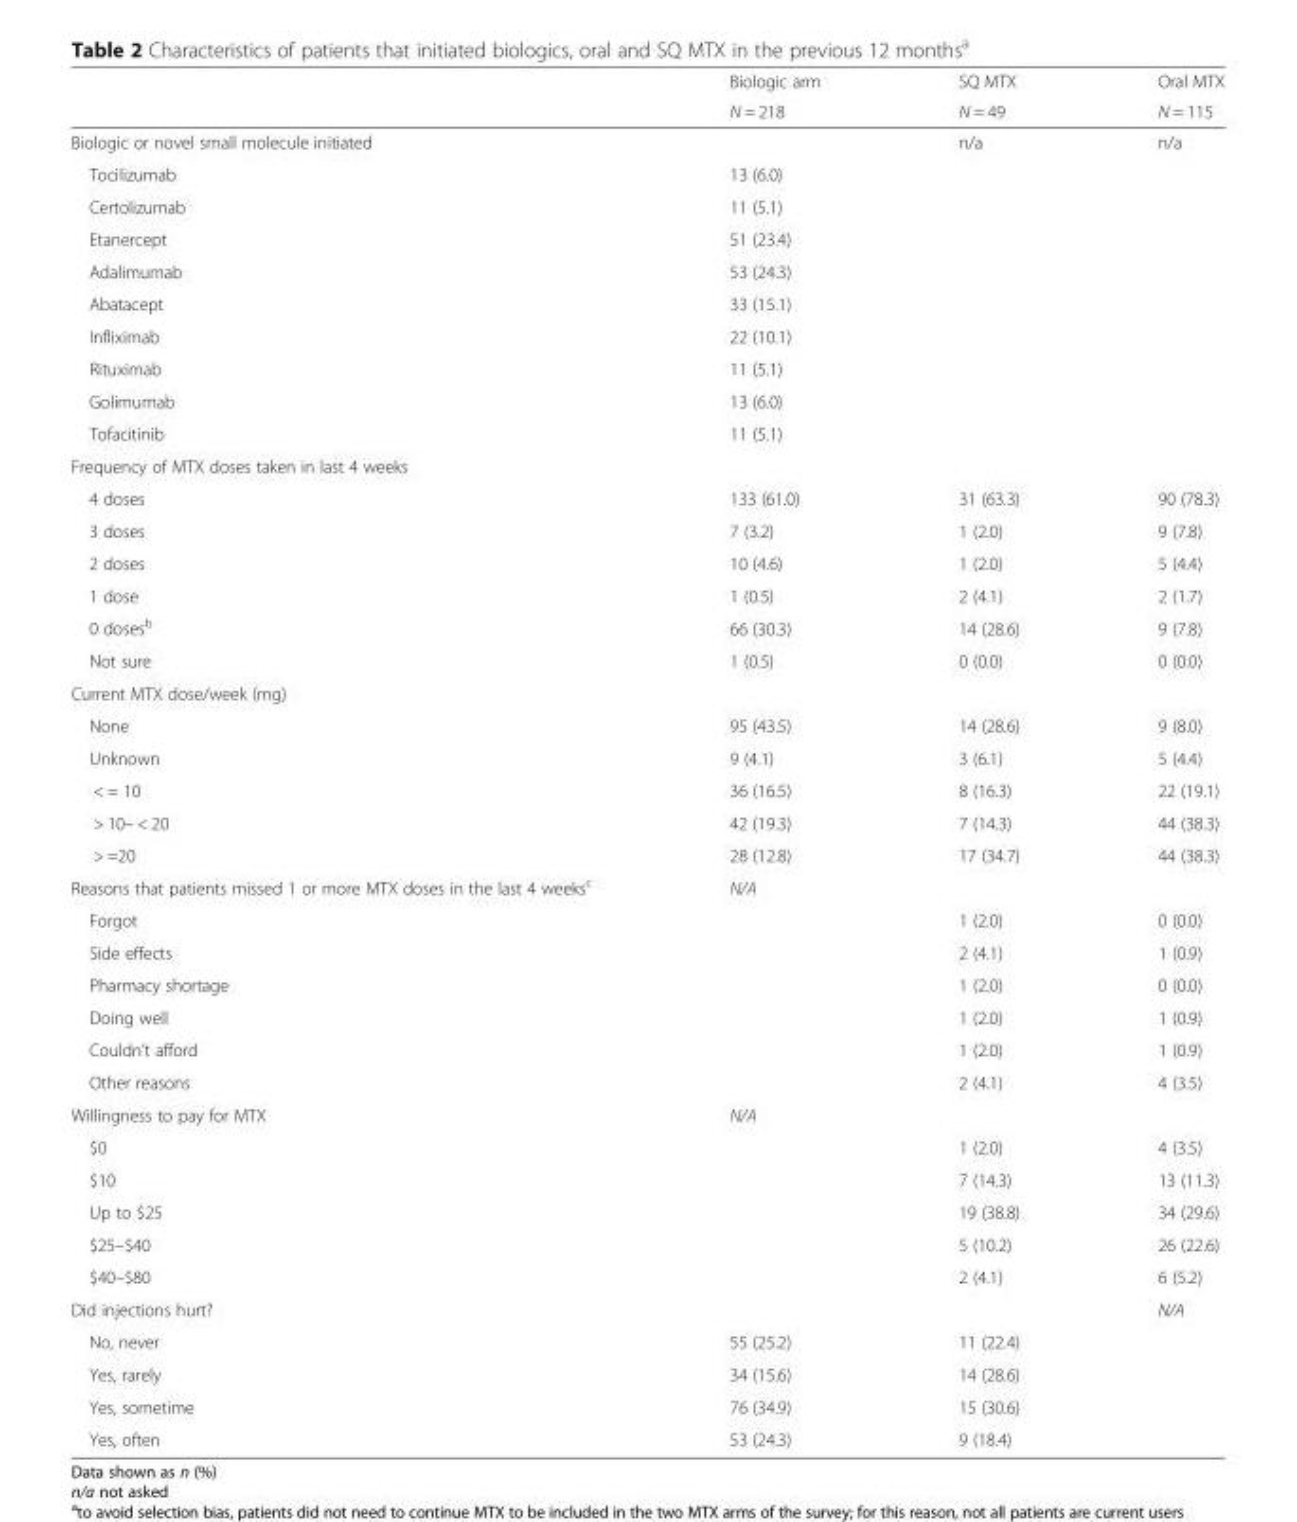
<table><thead><tr><td rowspan="2"></td><td rowspan="2">Biologic arm N = 218</td><td rowspan="2">SQ MTX N = 49</td><td rowspan="2">Oral MTX N = 115</td></tr><tr></tr></thead><tbody><tr><td>Biologic or novel small molecule initiated</td><td></td><td>n/a</td><td>n/a</td></tr><tr><td>Tocilizumab</td><td>13 (6.0)</td><td rowspan="9"></td><td rowspan="9"></td></tr><tr><td>Certolizumab</td><td>11 (5.1)</td></tr><tr><td>Etanercept</td><td>51 (23.4)</td></tr><tr><td>Adalimumab</td><td>53 (24.3)</td></tr><tr><td>Abatacept</td><td>33 (15.1)</td></tr><tr><td>Infliximab</td><td>22 (10.1)</td></tr><tr><td>Rituximab</td><td>11 (5.1)</td></tr><tr><td>Golimumab</td><td>13 (6.0)</td></tr><tr><td>Tofacitinib</td><td>11 (5.1)</td></tr><tr><td colspan="4">Frequency of MTX doses taken in last 4 weeks</td></tr><tr><td>4 doses</td><td>133 (61.0)</td><td>31 (63.3)</td><td>90 (78.3)</td></tr><tr><td>3 doses</td><td>7 (3.2)</td><td>1 (2.0)</td><td>9 (7.8)</td></tr><tr><td>2 doses</td><td>10 (4.6)</td><td>1 (2.0)</td><td>5 (4.4)</td></tr><tr><td>1 dose</td><td>1 (0.5)</td><td>2 (4.1)</td><td>2 (1.7)</td></tr><tr><td>0 doses<sup>b</sup></td><td>66 (30.3)</td><td>14 (28.6)</td><td>9 (7.8)</td></tr><tr><td>Not sure</td><td>1 (0.5)</td><td>0 (0.0)</td><td>0 (0.0)</td></tr><tr><td colspan="4">Current MTX dose/week (mg)</td></tr><tr><td>None</td><td>95 (43.5)</td><td>14 (28.6)</td><td>9 (8.0)</td></tr><tr><td>Unknown</td><td>9 (4.1)</td><td>3 (6.1)</td><td>5 (4.4)</td></tr><tr><td>&lt; = 10</td><td>36 (16.5)</td><td>8 (16.3)</td><td>22 (19.1)</td></tr><tr><td>&gt; 10– &lt; 20</td><td>42 (19.3)</td><td>7 (14.3)</td><td>44 (38.3)</td></tr><tr><td>&gt; =20</td><td>28 (12.8)</td><td>17 (34.7)</td><td>44 (38.3)</td></tr><tr><td>Reasons that patients missed 1 or more MTX doses in the last 4 weeks<sup>c</sup></td><td>N/A</td><td></td><td></td></tr><tr><td>Forgot</td><td rowspan="6"></td><td>1 (2.0)</td><td>0 (0.0)</td></tr><tr><td>Side effects</td><td>2 (4.1)</td><td>1 (0.9)</td></tr><tr><td>Pharmacy shortage</td><td>1 (2.0)</td><td>0 (0.0)</td></tr><tr><td>Doing well</td><td>1 (2.0)</td><td>1 (0.9)</td></tr><tr><td>Couldn’t afford</td><td>1 (2.0)</td><td>1 (0.9)</td></tr><tr><td>Other reasons</td><td>2 (4.1)</td><td>4 (3.5)</td></tr><tr><td>Willingness to pay for MTX</td><td>N/A</td><td></td><td></td></tr><tr><td>$0</td><td rowspan="5"></td><td>1 (2.0)</td><td>4 (3.5)</td></tr><tr><td>$10</td><td>7 (14.3)</td><td>13 (11.3)</td></tr><tr><td>Up to $25</td><td>19 (38.8)</td><td>34 (29.6)</td></tr><tr><td>$25–$40</td><td>5 (10.2)</td><td>26 (22.6)</td></tr><tr><td>$40–$80</td><td>2 (4.1)</td><td>6 (5.2)</td></tr><tr><td>Did injections hurt?</td><td></td><td></td><td>N/A</td></tr><tr><td>No, never</td><td>55 (25.2)</td><td>11 (22.4)</td><td rowspan="4"></td></tr><tr><td>Yes, rarely</td><td>34 (15.6)</td><td>14 (28.6)</td></tr><tr><td>Yes, sometime</td><td>76 (34.9)</td><td>15 (30.6)</td></tr><tr><td>Yes, often</td><td>53 (24.3)</td><td>9 (18.4)</td></tr></tbody></table>